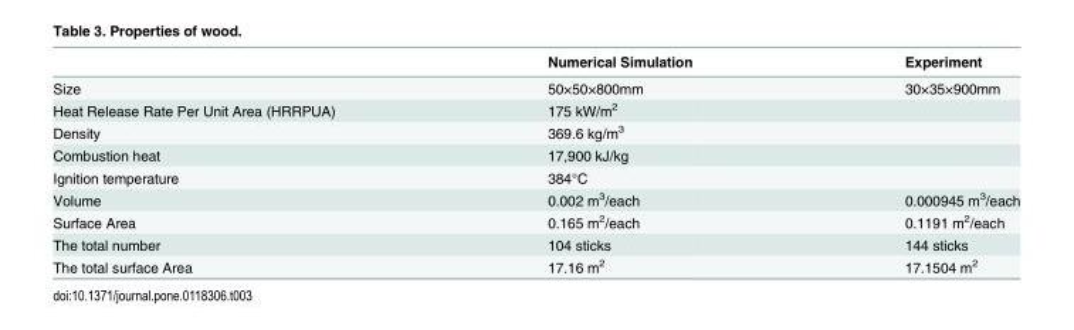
<table><thead><tr><td></td><td>Numerical Simulation</td><td>Experiment</td></tr></thead><tbody><tr><td>Size</td><td>50×50×800mm</td><td>30×35×900mm</td></tr><tr><td>Heat Release Rate Per Unit Area (HRRPUA)</td><td>175 kW/m<sup>2</sup></td><td></td></tr><tr><td>Density</td><td>369.6 kg/m<sup>3</sup></td><td></td></tr><tr><td>Combustion heat</td><td>17,900 kJ/kg</td><td></td></tr><tr><td>Ignition temperature</td><td>384°C</td><td></td></tr><tr><td>Volume</td><td>0.002 m<sup>3</sup>/each</td><td>0.000945 m<sup>3</sup>/each</td></tr><tr><td>Surface Area</td><td>0.165 m<sup>2</sup>/each</td><td>0.1191 m<sup>2</sup>/each</td></tr><tr><td>The total number</td><td>104 sticks</td><td>144 sticks</td></tr><tr><td>The total surface Area</td><td>17.16 m<sup>2</sup></td><td>17.1504 m<sup>2</sup></td></tr></tbody></table>